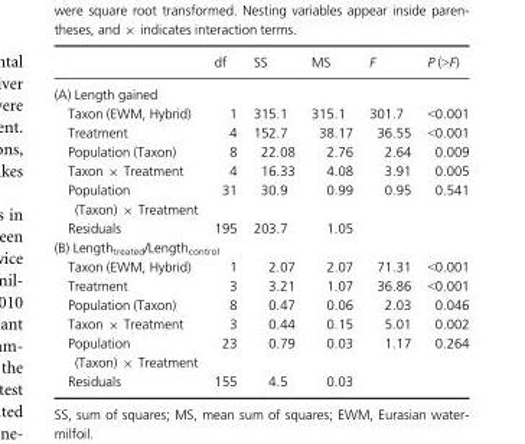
<table><thead><tr><td></td><td>df</td><td>SS</td><td>MS</td><td>F</td><td>P (&gt;F)</td></tr></thead><tbody><tr><td colspan="6">(A) Length gained</td></tr><tr><td>Taxon (EWM, Hybrid)</td><td>1</td><td>315.1</td><td>315.1</td><td>301.7</td><td>&lt;0.001</td></tr><tr><td>Treatment</td><td>4</td><td>152.7</td><td>38.17</td><td>36.55</td><td>&lt;0.001</td></tr><tr><td>Population (Taxon)</td><td>8</td><td>22.08</td><td>2.76</td><td>2.64</td><td>0.009</td></tr><tr><td>Taxon × Treatment</td><td>4</td><td>16.33</td><td>4.08</td><td>3.91</td><td>0.005</td></tr><tr><td>Population (Taxon) × Treatment</td><td>31</td><td>30.9</td><td>0.99</td><td>0.95</td><td>0.541</td></tr><tr><td>Residuals</td><td>195</td><td>203.7</td><td>1.05</td><td></td><td></td></tr><tr><td colspan="6">(B) Length<sub>treated</sub>/Length<sub>control</sub></td></tr><tr><td>Taxon (EWM, Hybrid)</td><td>1</td><td>2.07</td><td>2.07</td><td>71.31</td><td>&lt;0.001</td></tr><tr><td>Treatment</td><td>3</td><td>3.21</td><td>1.07</td><td>36.86</td><td>&lt;0.001</td></tr><tr><td>Population (Taxon)</td><td>8</td><td>0.47</td><td>0.06</td><td>2.03</td><td>0.046</td></tr><tr><td>Taxon × Treatment</td><td>3</td><td>0.44</td><td>0.15</td><td>5.01</td><td>0.002</td></tr><tr><td>Population (Taxon) × Treatment</td><td>23</td><td>0.79</td><td>0.03</td><td>1.17</td><td>0.264</td></tr><tr><td>Residuals</td><td>155</td><td>4.5</td><td>0.03</td><td></td><td></td></tr></tbody></table>